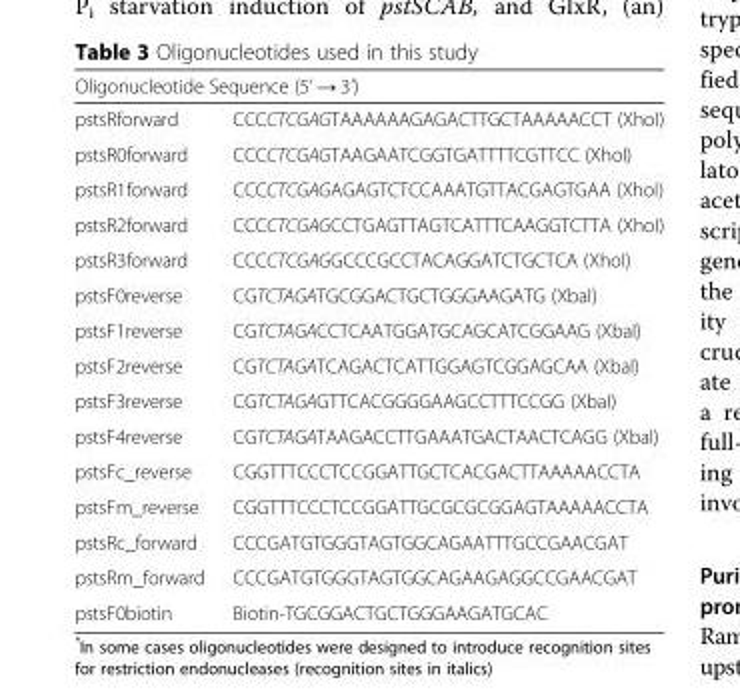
<table><thead><tr><td colspan="2">Oligonucleotide Sequence (5’ → 3’)</td></tr><tr><td>pstsRforward</td><td>CCCCTCGAGTAAAAAAGAGACTTGCTAAAAACCT (XhoI)</td></tr></thead><tbody><tr><td>pstsR0forward</td><td>CCCCTCGAGTAAGAATCGGTGATTTTCGTTCC (XhoI)</td></tr><tr><td>pstsR1forward</td><td>CCCCTCGAGAGAGTCTCCAAATGTTACGAGTGAA (XhoI)</td></tr><tr><td>pstsR2forward</td><td>CCCCTCGAGCCTGAGTTAGTCATTTCAAGGTCTTA (XhoI)</td></tr><tr><td>pstsR3forward</td><td>CCCCTCGAGGCCCGCCTACAGGATCTGCTCA (XhoI)</td></tr><tr><td>pstsF0reverse</td><td>CGTCTAGATGCGGACTGCTGGGAAGATG (XbaI)</td></tr><tr><td>pstsF1reverse</td><td>CGTCTAGACCTCAATGGATGCAGCATCGGAAG (XbaI)</td></tr><tr><td>pstsF2reverse</td><td>CGTCTAGATCAGACTCATTGGAGTCGGAGCAA (XbaI)</td></tr><tr><td>pstsF3reverse</td><td>CGTCTAGAGTTCACGGGGAAGCCTTTCCGG (XbaI)</td></tr><tr><td>pstsF4reverse</td><td>CGTCTAGATAAGACCTTGAAATGACTAACTCAGG (XbaI)</td></tr><tr><td>pstsFc_reverse</td><td>CGGTTTCCCTCCGGATTGCTCACGACTTAAAAACCTA</td></tr><tr><td>pstsFm_reverse</td><td>CGGTTTCCCTCCGGATTGCGCGCGGAGTAAAAACCTA</td></tr><tr><td>pstsRc_forward</td><td>CCCGATGTGGGTAGTGGCAGAATTTGCCGAACGAT</td></tr><tr><td>pstsRm_forward</td><td>CCCGATGTGGGTAGTGGCAGAAGAGGCCGAACGAT</td></tr><tr><td>pstsF0biotin</td><td>Biotin-TGCGGACTGCTGGGAAGATGCAC</td></tr></tbody></table>